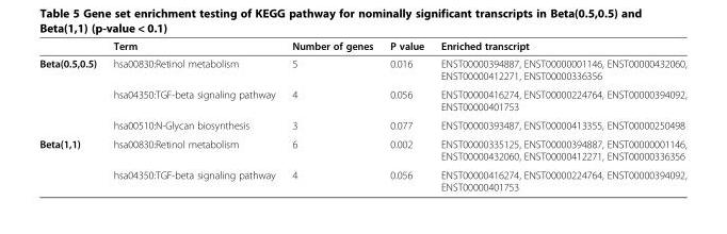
<table><thead><tr><td></td><td>Term</td><td>Number of genes</td><td>P value</td><td>Enriched transcript</td></tr></thead><tbody><tr><td rowspan="3">Beta(0.5,0.5)</td><td>hsa00830:Retinol metabolism</td><td>5</td><td>0.016</td><td>ENST00000394887, ENST00000001146, ENST00000432060, ENST00000412271, ENST00000336356</td></tr><tr><td>hsa04350:TGF-beta signaling pathway</td><td>4</td><td>0.056</td><td>ENST00000416274, ENST00000224764, ENST00000394092, ENST00000401753</td></tr><tr><td>hsa00510:N-Glycan biosynthesis</td><td>3</td><td>0.077</td><td>ENST00000393487, ENST00000413355, ENST00000250498</td></tr><tr><td rowspan="2">Beta(1,1)</td><td>hsa00830:Retinol metabolism</td><td>6</td><td>0.002</td><td>ENST00000335125, ENST00000394887, ENST00000001146, ENST00000432060, ENST00000412271, ENST00000336356</td></tr><tr><td>hsa04350:TGF-beta signaling pathway</td><td>4</td><td>0.056</td><td>ENST00000416274, ENST00000224764, ENST00000394092, ENST00000401753</td></tr></tbody></table>